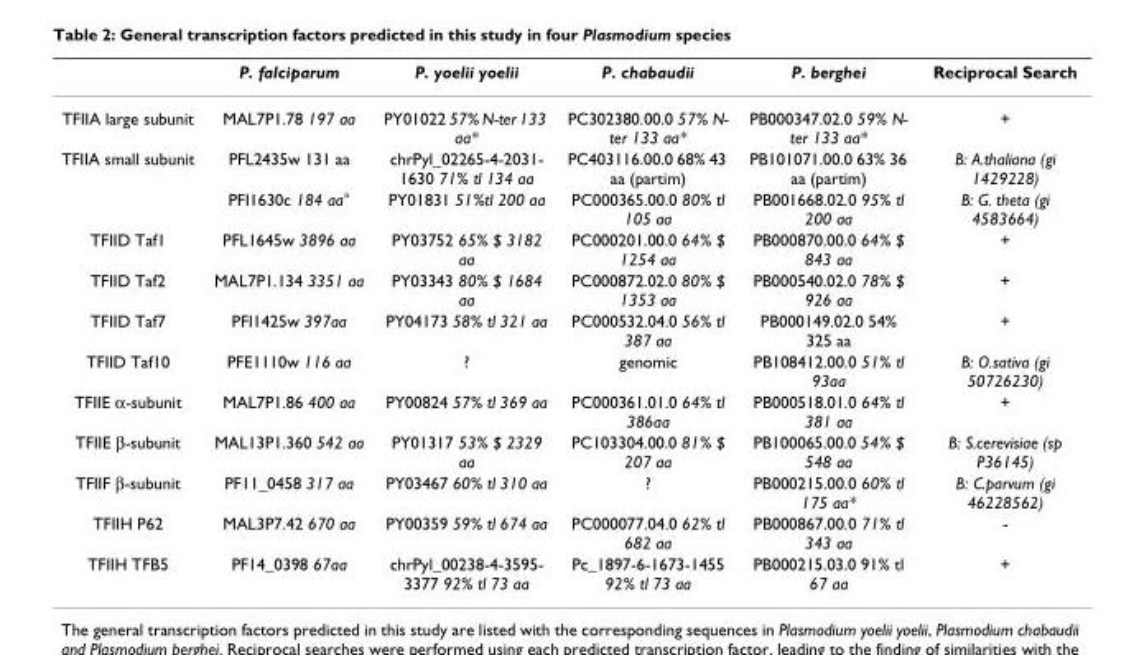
<table><thead><tr><td></td><td>P. falciparum</td><td>P. yoelii yoelii</td><td>P. chabaudii</td><td>P. berghei</td><td>Reciprocal Search</td></tr></thead><tbody><tr><td>TFIIA large subunit</td><td>MAL7P1.78 197 aa</td><td>PY01022 57% N-ter 133 aa*</td><td>PC302380.00.0 57% N- ter 133 aa*</td><td>PB000347.02.0 59% N- ter 133 aa*</td><td>+</td></tr><tr><td rowspan="2">TFIIA small subunit</td><td>PFL2435w 131 aa</td><td>chrPyl_02265-4-2031- 1630 71% tl 134 aa</td><td>PC403116.00.0 68% 43 aa (partim)</td><td>PB101071.00.0 63% 36 aa (partim)</td><td>B: A.thaliana (gi 1429228)</td></tr><tr><td>PFI1630c 184 aa°</td><td>PY01831 51%tl 200 aa</td><td>PC000365.00.0 80% tl 105 aa</td><td>PB001668.02.0 95% tl 200 aa</td><td>B: G. theta (gi 4583664)</td></tr><tr><td>TFIID Taf1</td><td>PFL1645w 3896 aa</td><td>PY03752 65% $ 3182 aa</td><td>PC000201.00.0 64% $ 1254 aa</td><td>PB000870.00.0 64% $ 843 aa</td><td>+</td></tr><tr><td>TFIID Taf2</td><td>MAL7P1.134 3351 aa</td><td>PY03343 80% $ 1684 aa</td><td>PC000872.02.0 80% $ 1353 aa</td><td>PB000540.02.0 78% $ 926 aa</td><td>+</td></tr><tr><td>TFIID Taf7</td><td>PFI1425w 397aa</td><td>PY04173 58% tl 321 aa</td><td>PC000532.04.0 56% tl 387 aa</td><td>PB000149.02.0 54% 325 aa</td><td>+</td></tr><tr><td>TFIID Taf10</td><td>PFE1110w 116 aa</td><td>?</td><td>genomic</td><td>PB108412.00.0 51% tl 93aa</td><td>B: O.sativa (gi 50726230)</td></tr><tr><td>TFIIE α-subunit</td><td>MAL7P1.86 400 aa</td><td>PY00824 57% tl 369 aa</td><td>PC000361.01.0 64% tl 386aa</td><td>PB000518.01.0 64% tl 381 aa</td><td>+</td></tr><tr><td>TFIIE β-subunit</td><td>MAL13P1.360 542 aa</td><td>PY01317 53% $ 2329 aa</td><td>PC103304.00.0 81% $ 207 aa</td><td>PB100065.00.0 54% $ 548 aa</td><td>B: S.cerevisiae (sp P36145)</td></tr><tr><td>TFIIF β-subunit</td><td>PF11_0458 317 aa</td><td>PY03467 60% tl 310 aa</td><td>?</td><td>PB000215.00.0 60% tl 175 aa*</td><td>B: C.parvum (gi 46228562)</td></tr><tr><td>TFIIH P62</td><td>MAL3P7.42 670 aa</td><td>PY00359 59% tl 674 aa</td><td>PC000077.04.0 62% tl 682 aa</td><td>PB000867.00.0 71% tl 343 aa</td><td>-</td></tr><tr><td>TFIIH TFB5</td><td>PF14_0398 67aa</td><td>chrPyl_00238-4-3595- 3377 92% tl 73 aa</td><td>Pc_1897-6-1673-1455 92% tl 73 aa</td><td>PB000215.03.0 91% tl 67 aa</td><td>+</td></tr></tbody></table>